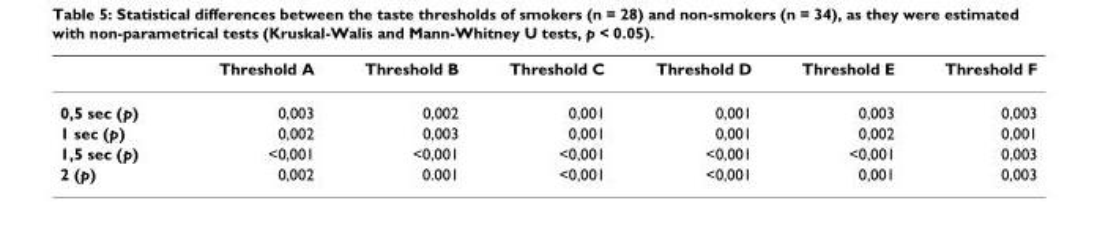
<table><thead><tr><td></td><td>Threshold A</td><td>Threshold B</td><td>Threshold C</td><td>Threshold D</td><td>Threshold E</td><td>Threshold F</td></tr></thead><tbody><tr><td>0,5 sec (p)</td><td>0,003</td><td>0,002</td><td>0,001</td><td>0,001</td><td>0,003</td><td>0,003</td></tr><tr><td>1 sec (p)</td><td>0,002</td><td>0,003</td><td>0,001</td><td>0,001</td><td>0,002</td><td>0,001</td></tr><tr><td>1,5 sec (p)</td><td>&lt;0,001</td><td>&lt;0,001</td><td>&lt;0,001</td><td>&lt;0,001</td><td>&lt;0,001</td><td>0,003</td></tr><tr><td>2 (p)</td><td>0,002</td><td>0.001</td><td>&lt;0,001</td><td>&lt;0,001</td><td>0,001</td><td>0,003</td></tr></tbody></table>